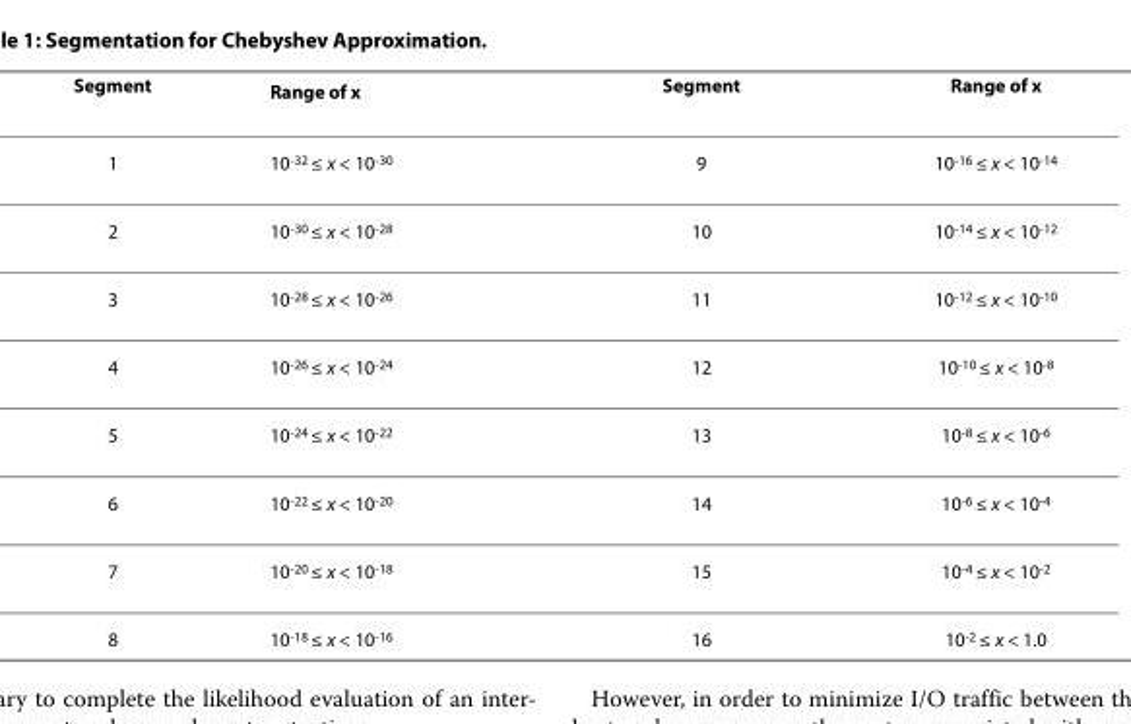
<table><thead><tr><td>Segment</td><td>Range of x</td><td>Segment</td><td>Range of x</td></tr></thead><tbody><tr><td>1</td><td>10<sup>-32</sup> ≤ x &lt; 10<sup>-30</sup></td><td>9</td><td>10<sup>-16</sup> ≤ x &lt; 10<sup>-14</sup></td></tr><tr><td>2</td><td>10<sup>-30</sup> ≤ x &lt; 10<sup>-28</sup></td><td>10</td><td>10<sup>-14</sup> ≤ x &lt; 10<sup>-12</sup></td></tr><tr><td>3</td><td>10<sup>-28</sup> ≤ x &lt; 10<sup>-26</sup></td><td>11</td><td>10<sup>-12</sup> ≤ x &lt; 10<sup>-10</sup></td></tr><tr><td>4</td><td>10<sup>-26</sup> ≤ x &lt; 10<sup>-24</sup></td><td>12</td><td>10<sup>-10</sup> ≤ x &lt; 10<sup>-8</sup></td></tr><tr><td>5</td><td>10<sup>-24</sup> ≤ x &lt; 10<sup>-22</sup></td><td>13</td><td>10<sup>-8</sup> ≤ x &lt; 10<sup>-6</sup></td></tr><tr><td>6</td><td>10<sup>-22</sup> ≤ x &lt; 10<sup>-20</sup></td><td>14</td><td>10<sup>-6</sup> ≤ x &lt; 10<sup>-4</sup></td></tr><tr><td>7</td><td>10<sup>-20</sup> ≤ x &lt; 10<sup>-18</sup></td><td>15</td><td>10<sup>-4</sup> ≤ x &lt; 10<sup>-2</sup></td></tr><tr><td>8</td><td>10<sup>-18</sup> ≤ x &lt; 10<sup>-16</sup></td><td>16</td><td>10<sup>-2</sup> ≤ x &lt; 1.0</td></tr></tbody></table>